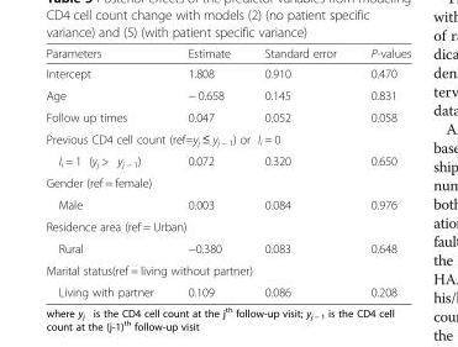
<table><thead><tr><td>Parameters</td><td>Estimate</td><td>Standard error</td><td>P-values</td></tr></thead><tbody><tr><td>Intercept</td><td>1.808</td><td>0.910</td><td>0.470</td></tr><tr><td>Age</td><td>− 0.658</td><td>0.145</td><td>0.831</td></tr><tr><td>Follow up times</td><td>0.047</td><td>0.052</td><td>0.058</td></tr><tr><td colspan="4">Previous CD4 cell count (ref=y<sub>j</sub> ≤ y<sub>j − 1</sub>) or I<sub>i</sub> = 0</td></tr><tr><td>I<sub>i</sub> = 1 (y<sub>j</sub> &gt; y<sub>j − 1</sub>)</td><td>0.072</td><td>0.320</td><td>0.650</td></tr><tr><td colspan="4">Gender (ref = female)</td></tr><tr><td>Male</td><td>0.003</td><td>0.084</td><td>0.976</td></tr><tr><td colspan="4">Residence area (ref = Urban)</td></tr><tr><td>Rural</td><td>−0.380</td><td>0.083</td><td>0.648</td></tr><tr><td colspan="4">Marital status(ref = living without partner)</td></tr><tr><td>Living with partner</td><td>0.109</td><td>0.086</td><td>0.208</td></tr></tbody></table>